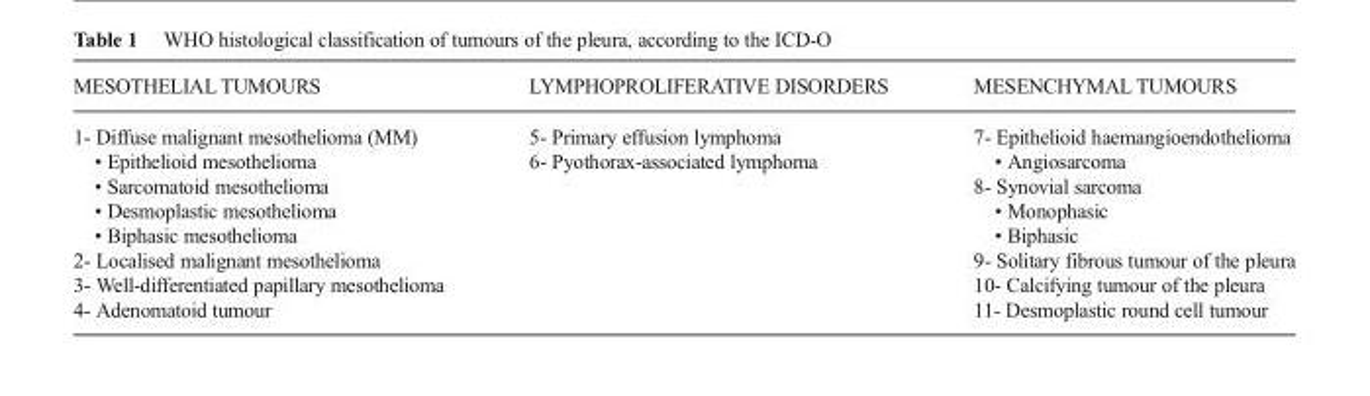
<table><thead><tr><td>MESOTHELIAL TUMOURS</td><td>LYMPHOPROLIFERATIVE DISORDERS</td><td>MESENCHYMAL TUMOURS</td></tr></thead><tbody><tr><td>1- Diffuse malignant mesothelioma (MM) • Epithelioid mesothelioma • Sarcomatoid mesothelioma • Desmoplastic mesothelioma • Biphasic mesothelioma 2- Localised malignant mesothelioma 3- Well-differentiated papillary mesothelioma 4- Adenomatoid tumour</td><td>5- Primary effusion lymphoma 6- Pyothorax-associated lymphoma</td><td>7- Epithelioid haemangioendothelioma • Angiosarcoma 8- Synovial sarcoma • Monophasic • Biphasic 9- Solitary fibrous tumour of the pleura 10- Calcifying tumour of the pleura 11- Desmoplastic round cell tumour</td></tr></tbody></table>